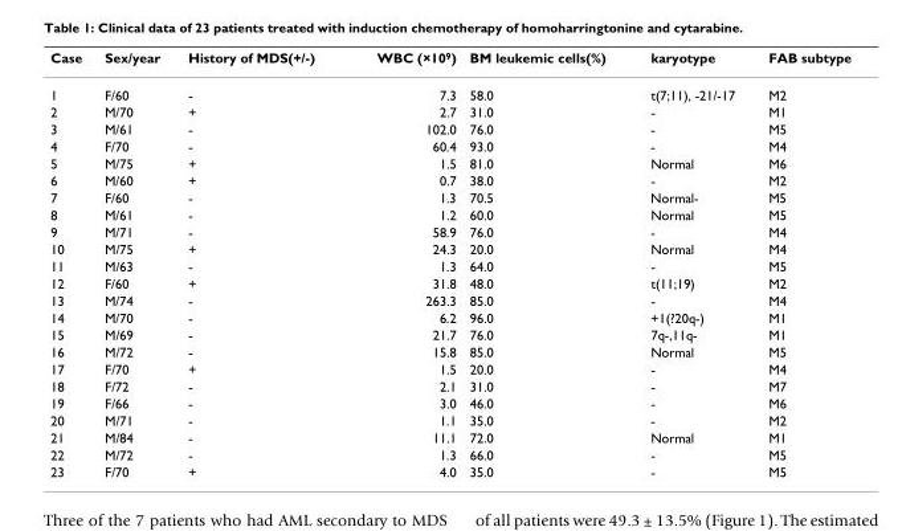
<table><thead><tr><td>Case</td><td>Sex/year</td><td>History of MDS(+/-)</td><td>WBC (×109)</td><td>BM leukemic cells(%)</td><td>karyotype</td><td>FAB subtype</td></tr></thead><tbody><tr><td>1</td><td>F/60</td><td>-</td><td>7.3</td><td>58.0</td><td>t(7;11), -21/-17</td><td>M2</td></tr><tr><td>2</td><td>M/70</td><td>+</td><td>2.7</td><td>31.0</td><td>-</td><td>M1</td></tr><tr><td>3</td><td>M/61</td><td>-</td><td>102.0</td><td>76.0</td><td>-</td><td>M5</td></tr><tr><td>4</td><td>F/70</td><td>-</td><td>60.4</td><td>93.0</td><td>-</td><td>M4</td></tr><tr><td>5</td><td>M/75</td><td>+</td><td>1.5</td><td>81.0</td><td>Normal</td><td>M6</td></tr><tr><td>6</td><td>M/60</td><td>+</td><td>0.7</td><td>38.0</td><td>-</td><td>M2</td></tr><tr><td>7</td><td>F/60</td><td>-</td><td>1.3</td><td>70.5</td><td>Normal-</td><td>M5</td></tr><tr><td>8</td><td>M/61</td><td>-</td><td>1.2</td><td>60.0</td><td>Normal</td><td>M5</td></tr><tr><td>9</td><td>M/71</td><td>-</td><td>58.9</td><td>76.0</td><td>-</td><td>M4</td></tr><tr><td>10</td><td>M/75</td><td>+</td><td>24.3</td><td>20.0</td><td>Normal</td><td>M4</td></tr><tr><td>11</td><td>M/63</td><td>-</td><td>1.3</td><td>64.0</td><td>-</td><td>M5</td></tr><tr><td>12</td><td>F/60</td><td>+</td><td>31.8</td><td>48.0</td><td>t(11;19)</td><td>M2</td></tr><tr><td>13</td><td>M/74</td><td>-</td><td>263.3</td><td>85.0</td><td>-</td><td>M4</td></tr><tr><td>14</td><td>M/70</td><td>-</td><td>6.2</td><td>96.0</td><td>+1(?20q-)</td><td>M1</td></tr><tr><td>15</td><td>M/69</td><td>-</td><td>21.7</td><td>76.0</td><td>7q-,11q-</td><td>M1</td></tr><tr><td>16</td><td>M/72</td><td>-</td><td>15.8</td><td>85.0</td><td>Normal</td><td>M5</td></tr><tr><td>17</td><td>F/70</td><td>+</td><td>1.5</td><td>20.0</td><td>-</td><td>M4</td></tr><tr><td>18</td><td>F/72</td><td>-</td><td>2.1</td><td>31.0</td><td>-</td><td>M7</td></tr><tr><td>19</td><td>F/66</td><td>-</td><td>3.0</td><td>46.0</td><td>-</td><td>M6</td></tr><tr><td>20</td><td>M/71</td><td>-</td><td>1.1</td><td>35.0</td><td>-</td><td>M2</td></tr><tr><td>21</td><td>M/84</td><td>-</td><td>11.1</td><td>72.0</td><td>Normal</td><td>M1</td></tr><tr><td>22</td><td>M/72</td><td>-</td><td>1.3</td><td>66.0</td><td>-</td><td>M5</td></tr><tr><td>23</td><td>F/70</td><td>+</td><td>4.0</td><td>35.0</td><td>-</td><td>M5</td></tr></tbody></table>